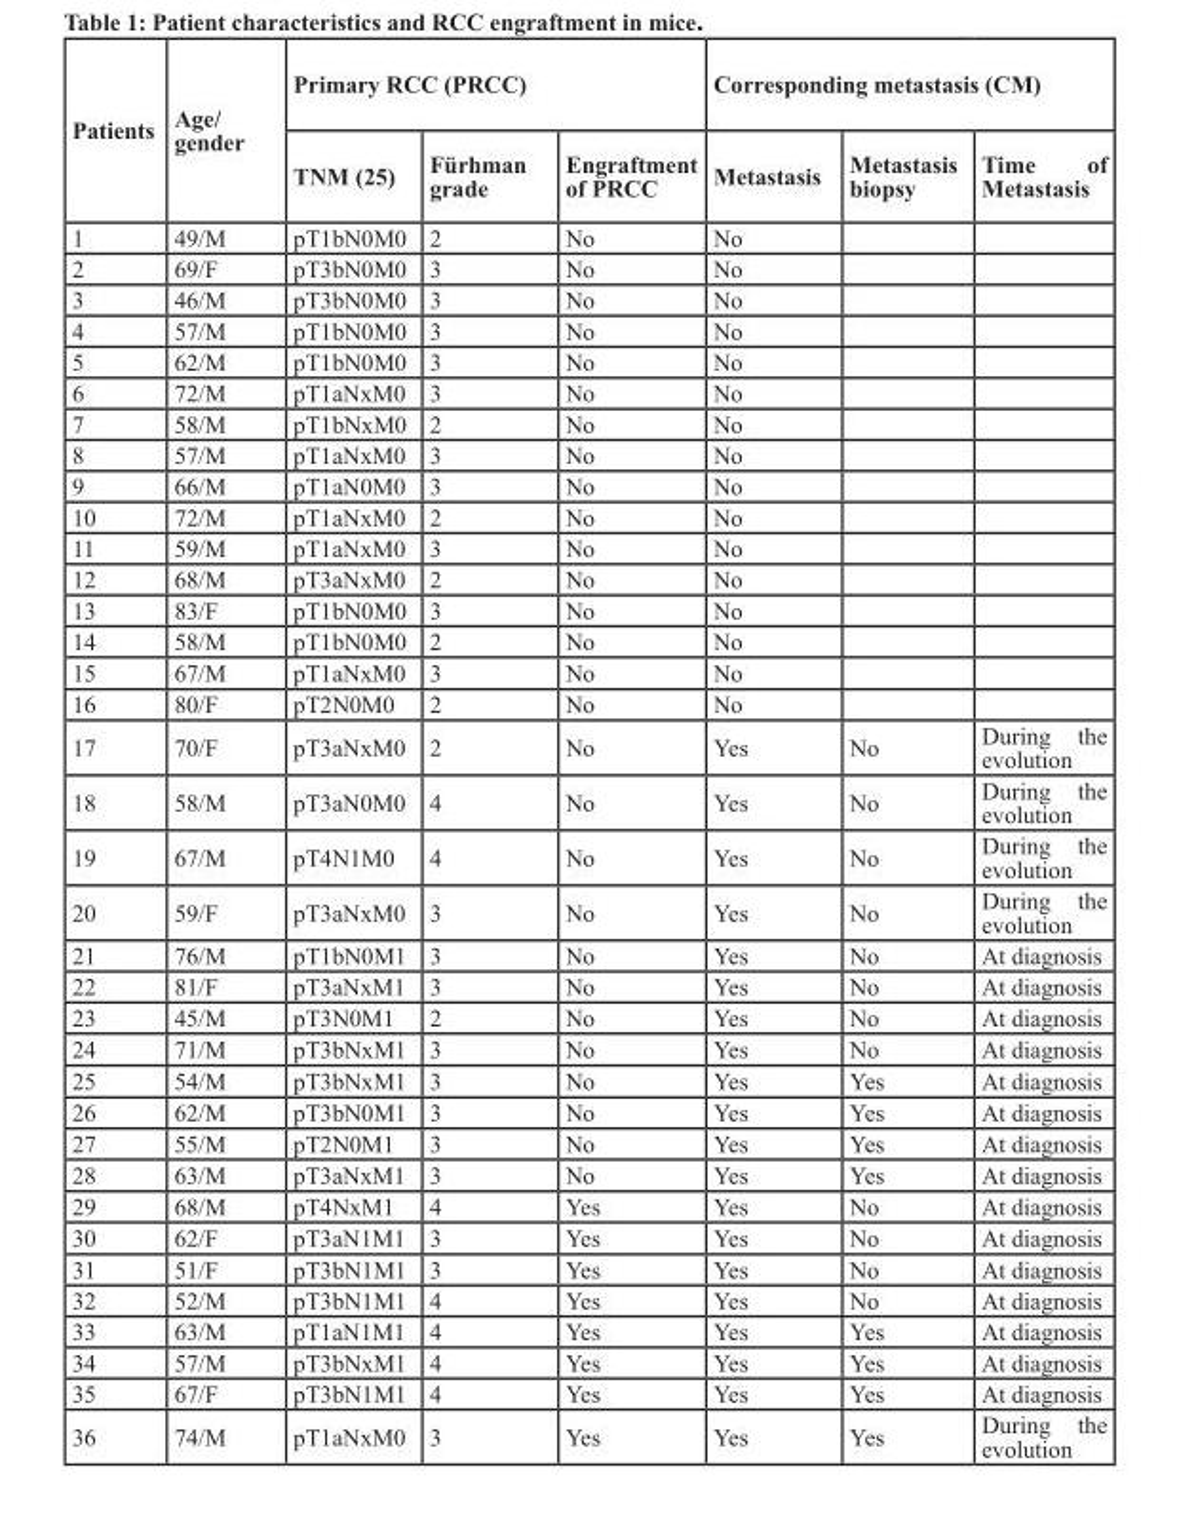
<table><thead><tr><td rowspan="2">Patients</td><td rowspan="2">Age/ gender</td><td colspan="3">Primary RCC (PRCC)</td><td colspan="3">Corresponding metastasis (CM)</td></tr><tr><td>TNM (25)</td><td>Fürhman grade</td><td>Engraftment of PRCC</td><td>Metastasis</td><td>Metastasis biopsy</td><td>Time of Metastasis</td></tr></thead><tbody><tr><td>1</td><td>49/M</td><td>pT1bN0M0</td><td>2</td><td>No</td><td>No</td><td></td><td></td></tr><tr><td>2</td><td>69/F</td><td>pT3bN0M0</td><td>3</td><td>No</td><td>No</td><td></td><td></td></tr><tr><td>3</td><td>46/M</td><td>pT3bN0M0</td><td>3</td><td>No</td><td>No</td><td></td><td></td></tr><tr><td>4</td><td>57/M</td><td>pT1bN0M0</td><td>3</td><td>No</td><td>No</td><td></td><td></td></tr><tr><td>5</td><td>62/M</td><td>pT1bN0M0</td><td>3</td><td>No</td><td>No</td><td></td><td></td></tr><tr><td>6</td><td>72/M</td><td>pT1aNxM0</td><td>3</td><td>No</td><td>No</td><td></td><td></td></tr><tr><td>7</td><td>58/M</td><td>pT1bNxM0</td><td>2</td><td>No</td><td>No</td><td></td><td></td></tr><tr><td>8</td><td>57/M</td><td>pT1aNxM0</td><td>3</td><td>No</td><td>No</td><td></td><td></td></tr><tr><td>9</td><td>66/M</td><td>pT1aN0M0</td><td>3</td><td>No</td><td>No</td><td></td><td></td></tr><tr><td>10</td><td>72/M</td><td>pT1aNxM0</td><td>2</td><td>No</td><td>No</td><td></td><td></td></tr><tr><td>11</td><td>59/M</td><td>pT1aNxM0</td><td>3</td><td>No</td><td>No</td><td></td><td></td></tr><tr><td>12</td><td>68/M</td><td>pT3aNxM0</td><td>2</td><td>No</td><td>No</td><td></td><td></td></tr><tr><td>13</td><td>83/F</td><td>pT1bN0M0</td><td>3</td><td>No</td><td>No</td><td></td><td></td></tr><tr><td>14</td><td>58/M</td><td>pT1bN0M0</td><td>2</td><td>No</td><td>No</td><td></td><td></td></tr><tr><td>15</td><td>67/M</td><td>pT1aNxM0</td><td>3</td><td>No</td><td>No</td><td></td><td></td></tr><tr><td>16</td><td>80/F</td><td>pT2N0M0</td><td>2</td><td>No</td><td>No</td><td></td><td></td></tr><tr><td>17</td><td>70/F</td><td>pT3aNxM0</td><td>2</td><td>No</td><td>Yes</td><td>No</td><td>During the evolution</td></tr><tr><td>18</td><td>58/M</td><td>pT3aN0M0</td><td>4</td><td>No</td><td>Yes</td><td>No</td><td>During the evolution</td></tr><tr><td>19</td><td>67/M</td><td>pT4N1M0</td><td>4</td><td>No</td><td>Yes</td><td>No</td><td>During the evolution</td></tr><tr><td>20</td><td>59/F</td><td>pT3aNxM0</td><td>3</td><td>No</td><td>Yes</td><td>No</td><td>During the evolution</td></tr><tr><td>21</td><td>76/M</td><td>pT1bN0M1</td><td>3</td><td>No</td><td>Yes</td><td>No</td><td>At diagnosis</td></tr><tr><td>22</td><td>81/F</td><td>pT3aNxM1</td><td>3</td><td>No</td><td>Yes</td><td>No</td><td>At diagnosis</td></tr><tr><td>23</td><td>45/M</td><td>pT3N0M1</td><td>2</td><td>No</td><td>Yes</td><td>No</td><td>At diagnosis</td></tr><tr><td>24</td><td>71/M</td><td>pT3bNxM1</td><td>3</td><td>No</td><td>Yes</td><td>No</td><td>At diagnosis</td></tr><tr><td>25</td><td>54/M</td><td>pT3bNxM1</td><td>3</td><td>No</td><td>Yes</td><td>Yes</td><td>At diagnosis</td></tr><tr><td>26</td><td>62/M</td><td>pT3bN0M1</td><td>3</td><td>No</td><td>Yes</td><td>Yes</td><td>At diagnosis</td></tr><tr><td>27</td><td>55/M</td><td>pT2N0M1</td><td>3</td><td>No</td><td>Yes</td><td>Yes</td><td>At diagnosis</td></tr><tr><td>28</td><td>63/M</td><td>pT3aNxM1</td><td>3</td><td>No</td><td>Yes</td><td>Yes</td><td>At diagnosis</td></tr><tr><td>29</td><td>68/M</td><td>pT4NxM1</td><td>4</td><td>Yes</td><td>Yes</td><td>No</td><td>At diagnosis</td></tr><tr><td>30</td><td>62/F</td><td>pT3aN1M1</td><td>3</td><td>Yes</td><td>Yes</td><td>No</td><td>At diagnosis</td></tr><tr><td>31</td><td>51/F</td><td>pT3bN1M1</td><td>3</td><td>Yes</td><td>Yes</td><td>No</td><td>At diagnosis</td></tr><tr><td>32</td><td>52/M</td><td>pT3bN1M1</td><td>4</td><td>Yes</td><td>Yes</td><td>No</td><td>At diagnosis</td></tr><tr><td>33</td><td>63/M</td><td>pT1aN1M1</td><td>4</td><td>Yes</td><td>Yes</td><td>Yes</td><td>At diagnosis</td></tr><tr><td>34</td><td>57/M</td><td>pT3bNxM1</td><td>4</td><td>Yes</td><td>Yes</td><td>Yes</td><td>At diagnosis</td></tr><tr><td>35</td><td>67/F</td><td>pT3bN1M1</td><td>4</td><td>Yes</td><td>Yes</td><td>Yes</td><td>At diagnosis</td></tr><tr><td>36</td><td>74/M</td><td>pT1aNxM0</td><td>3</td><td>Yes</td><td>Yes</td><td>Yes</td><td>During the evolution</td></tr></tbody></table>